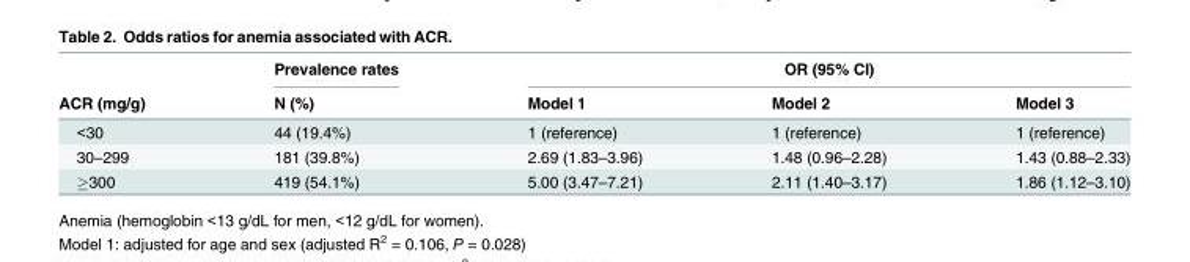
<table><thead><tr><td rowspan="2">ACR (mg/g)</td><td rowspan="2">Prevalence rates N (%)</td><td colspan="3">OR (95% CI)</td></tr><tr><td>Model 1</td><td>Model 2</td><td>Model 3</td></tr></thead><tbody><tr><td>&lt;30</td><td>44 (19.4%)</td><td>1 (reference)</td><td>1 (reference)</td><td>1 (reference)</td></tr><tr><td>30–299</td><td>181 (39.8%)</td><td>2.69 (1.83–3.96)</td><td>1.48 (0.96–2.28)</td><td>1.43 (0.88–2.33)</td></tr><tr><td>≥300</td><td>419 (54.1%)</td><td>5.00 (3.47–7.21)</td><td>2.11 (1.40–3.17)</td><td>1.86 (1.12–3.10)</td></tr></tbody></table>